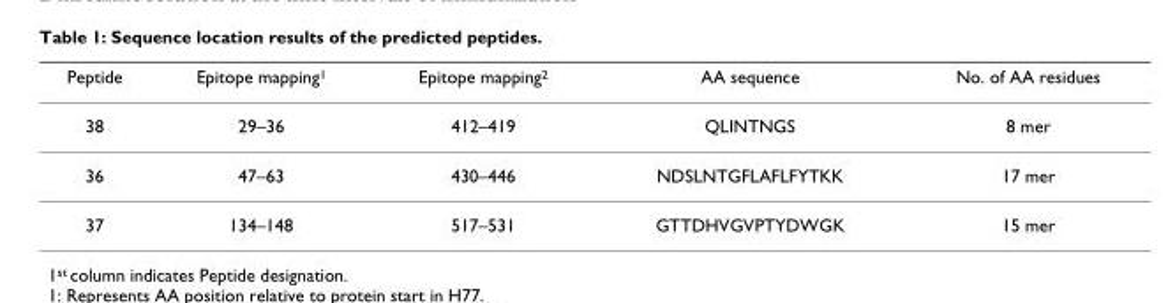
<table><thead><tr><td>Peptide</td><td>Epitope mapping<sup>1</sup></td><td>Epitope mapping<sup>2</sup></td><td>AA sequence</td><td>No. of AA residues</td></tr></thead><tbody><tr><td>38</td><td>29–36</td><td>412–419</td><td>QLINTNGS</td><td>8 mer</td></tr><tr><td>36</td><td>47–63</td><td>430–446</td><td>NDSLNTGFLAFLFYTKK</td><td>17 mer</td></tr><tr><td>37</td><td>134–148</td><td>517–531</td><td>GTTDHVGVPTYDWGK</td><td>15 mer</td></tr></tbody></table>